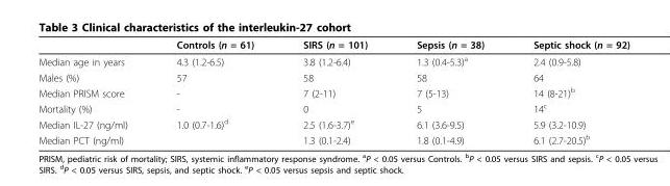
<table><thead><tr><td></td><td>Controls (n = 61)</td><td>SIRS (n = 101)</td><td>Sepsis (n = 38)</td><td>Septic shock (n = 92)</td></tr></thead><tbody><tr><td>Median age in years</td><td>4.3 (1.2-6.5)</td><td>3.8 (1.2-6.4)</td><td>1.3 (0.4-5.3)<sup>a</sup></td><td>2.4 (0.9-5.8)</td></tr><tr><td>Males (%)</td><td>57</td><td>58</td><td>58</td><td>64</td></tr><tr><td>Median PRISM score</td><td>-</td><td>7 (2-11)</td><td>7 (5-13)</td><td>14 (8-21)<sup>b</sup></td></tr><tr><td>Mortality (%)</td><td>-</td><td>0</td><td>5</td><td>14<sup>c</sup></td></tr><tr><td>Median IL-27 (ng/ml)</td><td>1.0 (0.7-1.6)<sup>d</sup></td><td>2.5 (1.6-3.7)<sup>e</sup></td><td>6.1 (3.6-9.5)</td><td>5.9 (3.2-10.9)</td></tr><tr><td>Median PCT (ng/ml)</td><td></td><td>1.3 (0.1-2.4)</td><td>1.8 (0.1-4.9)</td><td>6.1 (2.7-20.5)<sup>b</sup></td></tr></tbody></table>